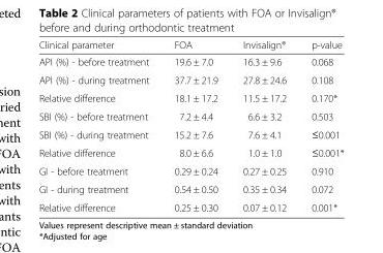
<table><thead><tr><td>Clinical parameter</td><td>FOA</td><td>Invisalign®</td><td>p-value</td></tr></thead><tbody><tr><td>API (%) - before treatment</td><td>19.6 ± 7.0</td><td>16.3 ± 9.6</td><td>0.068</td></tr><tr><td>API (%) - during treatment</td><td>37.7 ± 21.9</td><td>27.8 ± 24.6</td><td>0.108</td></tr><tr><td>Relative difference</td><td>18.1 ± 17.2</td><td>11.5 ± 17.2</td><td>0.170*</td></tr><tr><td>SBI (%) - before treatment</td><td>7.2 ± 4.4</td><td>6.6 ± 3.2</td><td>0.503</td></tr><tr><td>SBI (%) - during treatment</td><td>15.2 ± 7.6</td><td>7.6 ± 4.1</td><td>≤0.001</td></tr><tr><td>Relative difference</td><td>8.0 ± 6.6</td><td>1.0 ± 1.0</td><td>≤0.001*</td></tr><tr><td>GI - before treatment</td><td>0.29 ± 0.24</td><td>0.27 ± 0.25</td><td>0.910</td></tr><tr><td>GI - during treatment</td><td>0.54 ± 0.50</td><td>0.35 ± 0.34</td><td>0.072</td></tr><tr><td>Relative difference</td><td>0.25 ± 0.30</td><td>0.07 ± 0.12</td><td>0.001*</td></tr></tbody></table>